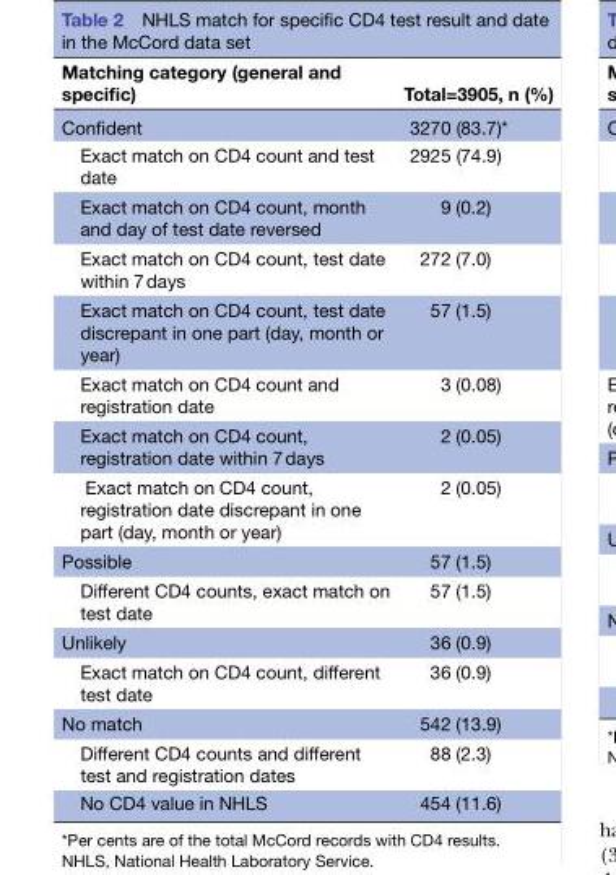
<table><thead><tr><td>Matching category (general and specific)</td><td>Total=3905, n (%)</td></tr></thead><tbody><tr><td>Confident</td><td>3270 (83.7)*</td></tr><tr><td>Exact match on CD4 count and test date</td><td>2925 (74.9)</td></tr><tr><td>Exact match on CD4 count, month and day of test date reversed</td><td>9 (0.2)</td></tr><tr><td>Exact match on CD4 count, test date within 7 days</td><td>272 (7.0)</td></tr><tr><td>Exact match on CD4 count, test date discrepant in one part (day, month or year)</td><td>57 (1.5)</td></tr><tr><td>Exact match on CD4 count and registration date</td><td>3 (0.08)</td></tr><tr><td>Exact match on CD4 count, registration date within 7 days</td><td>2 (0.05)</td></tr><tr><td>Exact match on CD4 count, registration date discrepant in one part (day, month or year)</td><td>2 (0.05)</td></tr><tr><td>Possible</td><td>57 (1.5)</td></tr><tr><td>Different CD4 counts, exact match on test date</td><td>57 (1.5)</td></tr><tr><td>Unlikely</td><td>36 (0.9)</td></tr><tr><td>Exact match on CD4 count, different test date</td><td>36 (0.9)</td></tr><tr><td>No match</td><td>542 (13.9)</td></tr><tr><td>Different CD4 counts and different test and registration dates</td><td>88 (2.3)</td></tr><tr><td>No CD4 value in NHLS</td><td>454 (11.6)</td></tr></tbody></table>